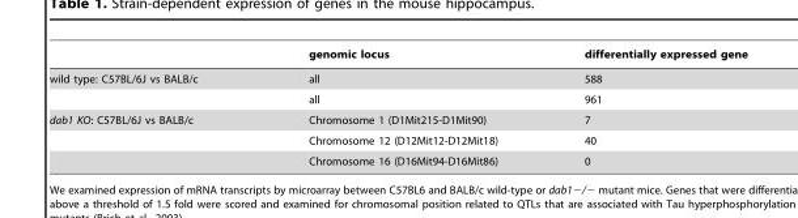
<table><thead><tr><td></td><td>genomic locus</td><td>differentially expressed gene</td></tr></thead><tbody><tr><td rowspan="2">wild type: C57BL/6J vs BALB/c</td><td>all</td><td>588</td></tr><tr><td>all</td><td>961</td></tr><tr><td rowspan="3">dab1 KO: C57BL/6J vs BALB/c</td><td>Chromosome 1 (D1Mit215-D1Mit90)</td><td>7</td></tr><tr><td>Chromosome 12 (D12Mit12-D12Mit18)</td><td>40</td></tr><tr><td>Chromosome 16 (D16Mit94-D16Mit86)</td><td>0</td></tr></tbody></table>